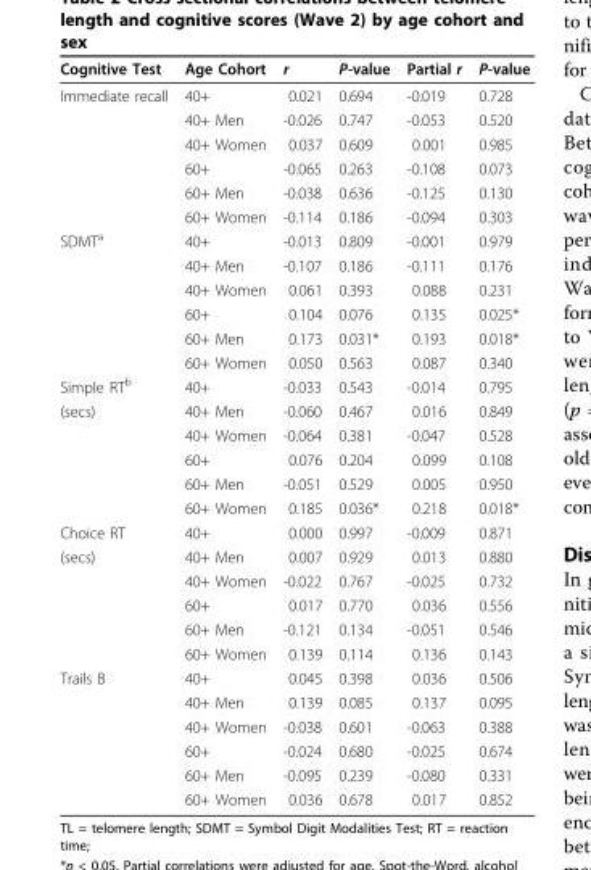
<table><thead><tr><td>Cognitive Test</td><td>Age Cohort</td><td>r</td><td>P-value</td><td>Partial r</td><td>P-value</td></tr></thead><tbody><tr><td rowspan="6">Immediate recall</td><td>40+</td><td>0.021</td><td>0.694</td><td>-0.019</td><td>0.728</td></tr><tr><td>40+ Men</td><td>-0.026</td><td>0.747</td><td>-0.053</td><td>0.520</td></tr><tr><td>40+ Women</td><td>0.037</td><td>0.609</td><td>0.001</td><td>0.985</td></tr><tr><td>60+</td><td>-0.065</td><td>0.263</td><td>-0.108</td><td>0.073</td></tr><tr><td>60+ Men</td><td>-0.038</td><td>0.636</td><td>-0.125</td><td>0.130</td></tr><tr><td>60+ Women</td><td>-0.114</td><td>0.186</td><td>-0.094</td><td>0.303</td></tr><tr><td rowspan="6">SDMT<sup>a</sup></td><td>40+</td><td>-0.013</td><td>0.809</td><td>-0.001</td><td>0.979</td></tr><tr><td>40+ Men</td><td>-0.107</td><td>0.186</td><td>-0.111</td><td>0.176</td></tr><tr><td>40+ Women</td><td>0.061</td><td>0.393</td><td>0.088</td><td>0.231</td></tr><tr><td>60+</td><td>0.104</td><td>0.076</td><td>0.135</td><td>0.025*</td></tr><tr><td>60+ Men</td><td>0.173</td><td>0.031*</td><td>0.193</td><td>0.018*</td></tr><tr><td>60+ Women</td><td>0.050</td><td>0.563</td><td>0.087</td><td>0.340</td></tr><tr><td>Simple RT<sup>b</sup></td><td>40+</td><td>-0.033</td><td>0.543</td><td>-0.014</td><td>0.795</td></tr><tr><td rowspan="5">(secs)</td><td>40+ Men</td><td>-0.060</td><td>0.467</td><td>0.016</td><td>0.849</td></tr><tr><td>40+ Women</td><td>-0.064</td><td>0.381</td><td>-0.047</td><td>0.528</td></tr><tr><td>60+</td><td>0.076</td><td>0.204</td><td>0.099</td><td>0.108</td></tr><tr><td>60+ Men</td><td>-0.051</td><td>0.529</td><td>0.005</td><td>0.950</td></tr><tr><td>60+ Women</td><td>0.185</td><td>0.036*</td><td>0.218</td><td>0.018*</td></tr><tr><td>Choice RT</td><td>40+</td><td>0.000</td><td>0.997</td><td>-0.009</td><td>0.871</td></tr><tr><td rowspan="5">(secs)</td><td>40+ Men</td><td>0.007</td><td>0.929</td><td>0.013</td><td>0.880</td></tr><tr><td>40+ Women</td><td>-0.022</td><td>0.767</td><td>-0.025</td><td>0.732</td></tr><tr><td>60+</td><td>0.017</td><td>0.770</td><td>0.036</td><td>0.556</td></tr><tr><td>60+ Men</td><td>-0.121</td><td>0.134</td><td>-0.051</td><td>0.546</td></tr><tr><td>60+ Women</td><td>0.139</td><td>0.114</td><td>0.136</td><td>0.143</td></tr><tr><td rowspan="6">Trails B</td><td>40+</td><td>0.045</td><td>0.398</td><td>0.036</td><td>0.506</td></tr><tr><td>40+ Men</td><td>0.139</td><td>0.085</td><td>0.137</td><td>0.095</td></tr><tr><td>40+ Women</td><td>-0.038</td><td>0.601</td><td>-0.063</td><td>0.388</td></tr><tr><td>60+</td><td>-0.024</td><td>0.680</td><td>-0.025</td><td>0.674</td></tr><tr><td>60+ Men</td><td>-0.095</td><td>0.239</td><td>-0.080</td><td>0.331</td></tr><tr><td>60+ Women</td><td>0.036</td><td>0.678</td><td>0.017</td><td>0.852</td></tr></tbody></table>